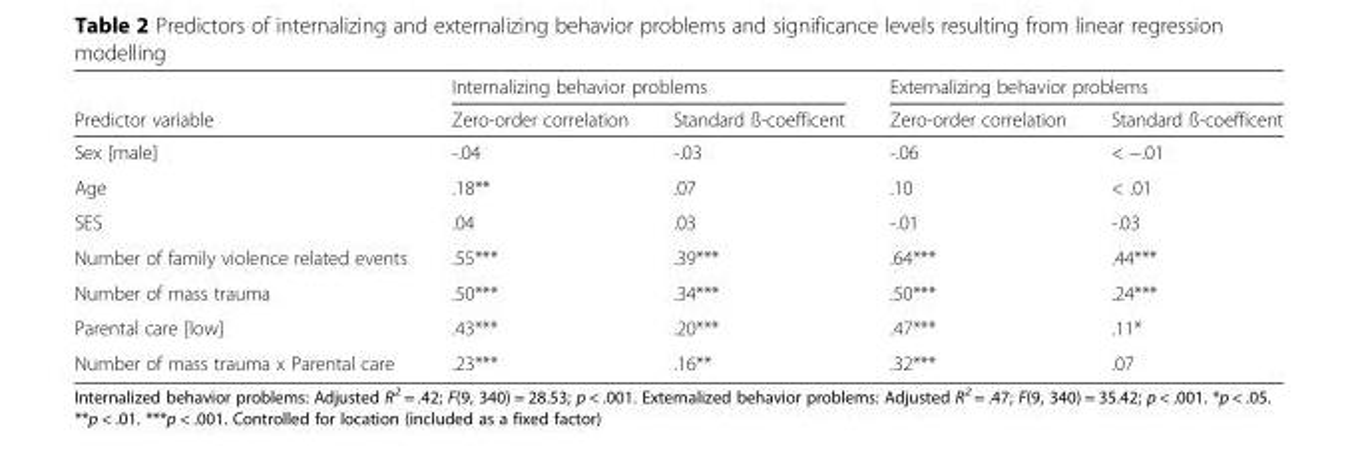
<table><thead><tr><td rowspan="2">Predictor variable</td><td colspan="2">Internalizing behavior problems</td><td colspan="2">Externalizing behavior problems</td></tr><tr><td>Zero-order correlation</td><td>Standard ß-coefficent</td><td>Zero-order correlation</td><td>Standard ß-coefficent</td></tr></thead><tbody><tr><td>Sex [male]</td><td>-.04</td><td>-.03</td><td>-.06</td><td>&lt; −.01</td></tr><tr><td>Age</td><td>.18**</td><td>.07</td><td>.10</td><td>&lt; .01</td></tr><tr><td>SES</td><td>.04</td><td>.03</td><td>-.01</td><td>-.03</td></tr><tr><td>Number of family violence related events</td><td>.55***</td><td>.39***</td><td>.64***</td><td>.44***</td></tr><tr><td>Number of mass trauma</td><td>.50***</td><td>.34***</td><td>.50***</td><td>.24***</td></tr><tr><td>Parental care [low]</td><td>.43***</td><td>.20***</td><td>.47***</td><td>.11*</td></tr><tr><td>Number of mass trauma x Parental care</td><td>.23***</td><td>.16**</td><td>.32***</td><td>.07</td></tr></tbody></table>